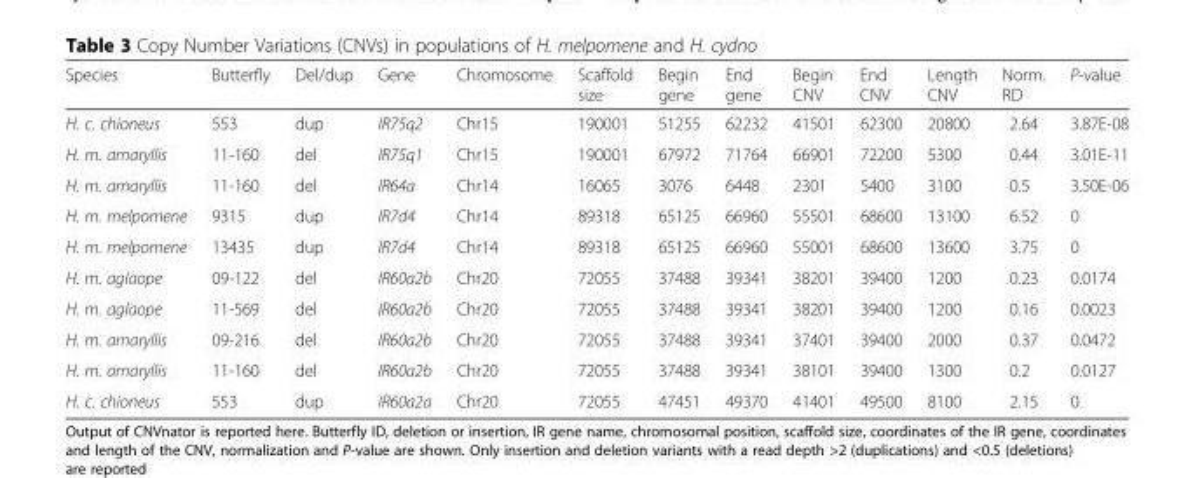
<table><thead><tr><td>Species</td><td>Butterfly</td><td>Del/dup</td><td>Gene</td><td>Chromosome</td><td>Scaffold size</td><td>Begin gene</td><td>End gene</td><td>Begin CNV</td><td>End CNV</td><td>Length CNV</td><td>Norm. RD</td><td>P-value</td></tr></thead><tbody><tr><td>H. c. chioneus</td><td>553</td><td>dup</td><td>IR75q2</td><td>Chr15</td><td>190001</td><td>51255</td><td>62232</td><td>41501</td><td>62300</td><td>20800</td><td>2.64</td><td>3.87E-08</td></tr><tr><td>H. m. amaryllis</td><td>11-160</td><td>del</td><td>IR75q1</td><td>Chr15</td><td>190001</td><td>67972</td><td>71764</td><td>66901</td><td>72200</td><td>5300</td><td>0.44</td><td>3.01E-11</td></tr><tr><td>H. m. amaryllis</td><td>11-160</td><td>del</td><td>IR64a</td><td>Chr14</td><td>16065</td><td>3076</td><td>6448</td><td>2301</td><td>5400</td><td>3100</td><td>0.5</td><td>3.50E-06</td></tr><tr><td>H. m. melpomene</td><td>9315</td><td>dup</td><td>IR7d4</td><td>Chr14</td><td>89318</td><td>65125</td><td>66960</td><td>55501</td><td>68600</td><td>13100</td><td>6.52</td><td>0</td></tr><tr><td>H. m. melpomene</td><td>13435</td><td>dup</td><td>IR7d4</td><td>Chr14</td><td>89318</td><td>65125</td><td>66960</td><td>55001</td><td>68600</td><td>13600</td><td>3.75</td><td>0</td></tr><tr><td>H. m. aglaope</td><td>09-122</td><td>del</td><td>IR60a2b</td><td>Chr20</td><td>72055</td><td>37488</td><td>39341</td><td>38201</td><td>39400</td><td>1200</td><td>0.23</td><td>0.0174</td></tr><tr><td>H. m. aglaope</td><td>11-569</td><td>del</td><td>IR60a2b</td><td>Chr20</td><td>72055</td><td>37488</td><td>39341</td><td>38201</td><td>39400</td><td>1200</td><td>0.16</td><td>0.0023</td></tr><tr><td>H. m. amaryllis</td><td>09-216</td><td>del</td><td>IR60a2b</td><td>Chr20</td><td>72055</td><td>37488</td><td>39341</td><td>37401</td><td>39400</td><td>2000</td><td>0.37</td><td>0.0472</td></tr><tr><td>H. m. amaryllis</td><td>11-160</td><td>del</td><td>IR60a2b</td><td>Chr20</td><td>72055</td><td>37488</td><td>39341</td><td>38101</td><td>39400</td><td>1300</td><td>0.2</td><td>0.0127</td></tr><tr><td>H. c. chioneus</td><td>553</td><td>dup</td><td>IR60a2a</td><td>Chr20</td><td>72055</td><td>47451</td><td>49370</td><td>41401</td><td>49500</td><td>8100</td><td>2.15</td><td>0</td></tr></tbody></table>